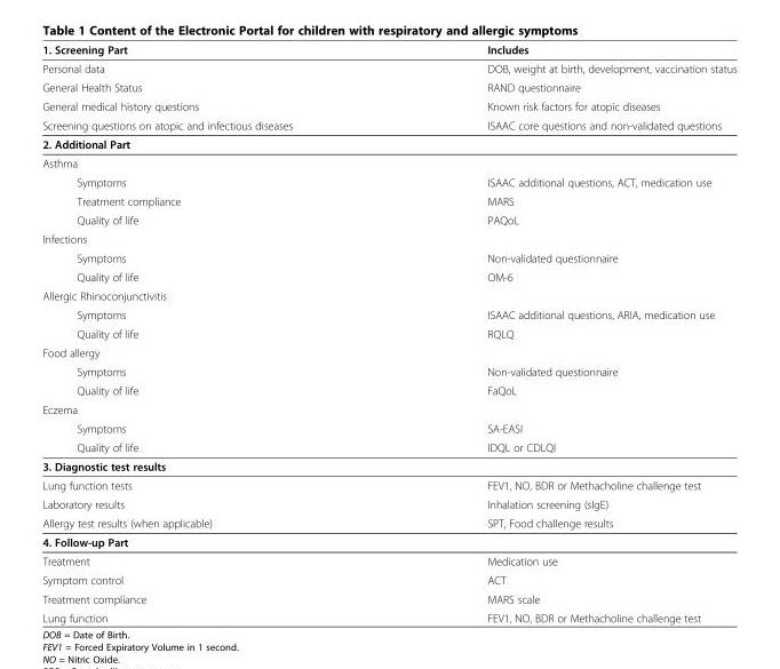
<table><thead><tr><td>1. Screening Part</td><td>Includes</td></tr></thead><tbody><tr><td>Personal data</td><td>DOB, weight at birth, development, vaccination status</td></tr><tr><td>General Health Status</td><td>RAND questionnaire</td></tr><tr><td>General medical history questions</td><td>Known risk factors for atopic diseases</td></tr><tr><td>Screening questions on atopic and infectious diseases</td><td>ISAAC core questions and non-validated questions</td></tr><tr><td colspan="2">2. Additional Part</td></tr><tr><td colspan="2">Asthma</td></tr><tr><td>Symptoms</td><td>ISAAC additional questions, ACT, medication use</td></tr><tr><td>Treatment compliance</td><td>MARS</td></tr><tr><td>Quality of life</td><td>PAQoL</td></tr><tr><td colspan="2">Infections</td></tr><tr><td>Symptoms</td><td>Non-validated questionnaire</td></tr><tr><td>Quality of life</td><td>OM-6</td></tr><tr><td colspan="2">Allergic Rhinoconjunctivitis</td></tr><tr><td>Symptoms</td><td>ISAAC additional questions, ARIA, medication use</td></tr><tr><td>Quality of life</td><td>RQLQ</td></tr><tr><td colspan="2">Food allergy</td></tr><tr><td>Symptoms</td><td>Non-validated questionnaire</td></tr><tr><td>Quality of life</td><td>FaQoL</td></tr><tr><td colspan="2">Eczema</td></tr><tr><td>Symptoms</td><td>SA-EASI</td></tr><tr><td>Quality of life</td><td>IDQL or CDLQI</td></tr><tr><td colspan="2">3. Diagnostic test results</td></tr><tr><td>Lung function tests</td><td>FEV1, NO, BDR or Methacholine challenge test</td></tr><tr><td>Laboratory results</td><td>Inhalation screening (sIgE)</td></tr><tr><td>Allergy test results (when applicable)</td><td>SPT, Food challenge results</td></tr><tr><td colspan="2">4. Follow-up Part</td></tr><tr><td>Treatment</td><td>Medication use</td></tr><tr><td>Symptom control</td><td>ACT</td></tr><tr><td>Treatment compliance</td><td>MARS scale</td></tr><tr><td>Lung function</td><td>FEV1, NO, BDR or Methacholine challenge test</td></tr></tbody></table>